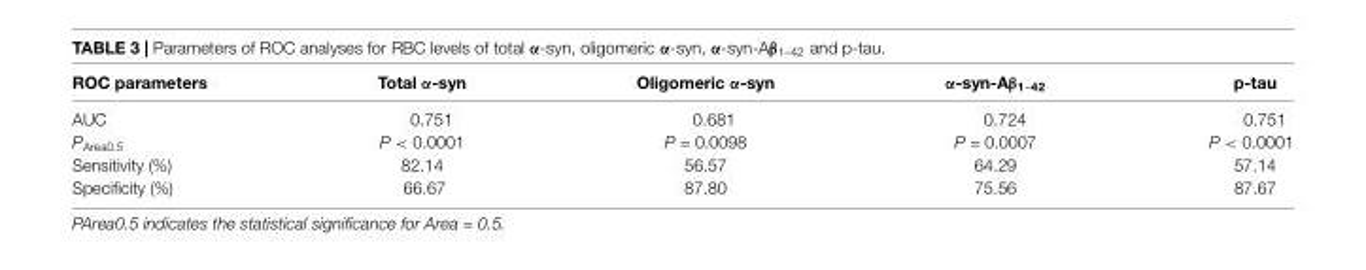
<table><thead><tr><td>ROC parameters</td><td>Total α-syn</td><td>Oligomeric α-syn</td><td>α-syn-Aβ<sub>1–42</sub></td><td>p-tau</td></tr></thead><tbody><tr><td>AUC</td><td>0.751</td><td>0.681</td><td>0.724</td><td>0.751</td></tr><tr><td>P<sub>Area0.5</sub></td><td>P &lt; 0.0001</td><td>P = 0.0098</td><td>P = 0.0007</td><td>P &lt; 0.0001</td></tr><tr><td>Sensitivity (%)</td><td>82.14</td><td>56.57</td><td>64.29</td><td>57.14</td></tr><tr><td>Specificity (%)</td><td>66.67</td><td>87.80</td><td>75.56</td><td>87.67</td></tr></tbody></table>